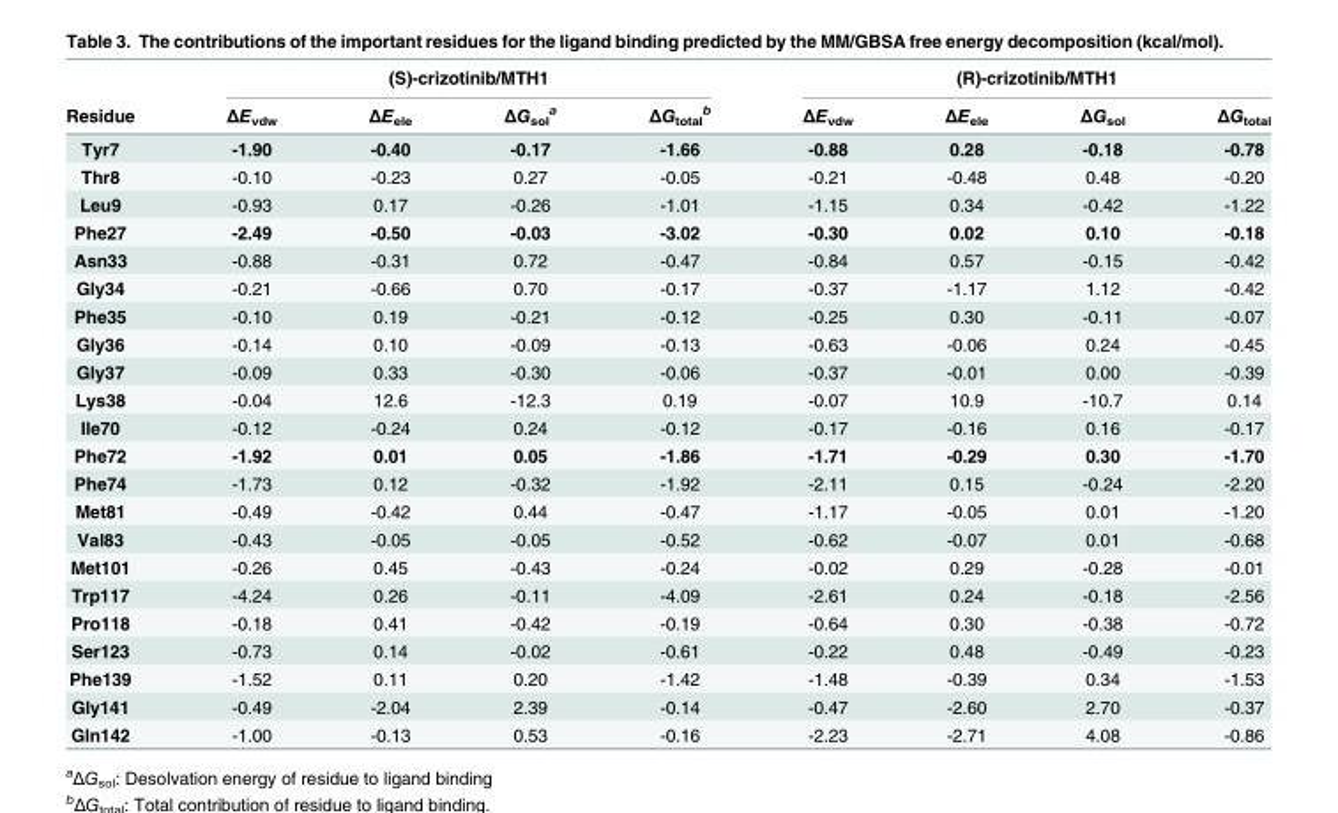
<table><thead><tr><td rowspan="2">Residue</td><td colspan="4">(S)-crizotinib/MTH1</td><td colspan="4">(R)-crizotinib/MTH1</td></tr><tr><td>ΔE<sub>vdw</sub></td><td>ΔE<sub>ele</sub></td><td>ΔG<sub>sol</sub> <sup>a</sup></td><td>ΔG<sub>total</sub> <sup>b</sup></td><td>ΔE<sub>vdw</sub></td><td>ΔE<sub>ele</sub></td><td>ΔG<sub>sol</sub></td><td>ΔG<sub>total</sub></td></tr></thead><tbody><tr><td>Tyr7</td><td>-1.90</td><td>-0.40</td><td>-0.17</td><td>-1.66</td><td>-0.88</td><td>0.28</td><td>-0.18</td><td>-0.78</td></tr><tr><td>Thr8</td><td>-0.10</td><td>-0.23</td><td>0.27</td><td>-0.05</td><td>-0.21</td><td>-0.48</td><td>0.48</td><td>-0.20</td></tr><tr><td>Leu9</td><td>-0.93</td><td>0.17</td><td>-0.26</td><td>-1.01</td><td>-1.15</td><td>0.34</td><td>-0.42</td><td>-1.22</td></tr><tr><td>Phe27</td><td>-2.49</td><td>-0.50</td><td>-0.03</td><td>-3.02</td><td>-0.30</td><td>0.02</td><td>0.10</td><td>-0.18</td></tr><tr><td>Asn33</td><td>-0.88</td><td>-0.31</td><td>0.72</td><td>-0.47</td><td>-0.84</td><td>0.57</td><td>-0.15</td><td>-0.42</td></tr><tr><td>Gly34</td><td>-0.21</td><td>-0.66</td><td>0.70</td><td>-0.17</td><td>-0.37</td><td>-1.17</td><td>1.12</td><td>-0.42</td></tr><tr><td>Phe35</td><td>-0.10</td><td>0.19</td><td>-0.21</td><td>-0.12</td><td>-0.25</td><td>0.30</td><td>-0.11</td><td>-0.07</td></tr><tr><td>Gly36</td><td>-0.14</td><td>0.10</td><td>-0.09</td><td>-0.13</td><td>-0.63</td><td>-0.06</td><td>0.24</td><td>-0.45</td></tr><tr><td>Gly37</td><td>-0.09</td><td>0.33</td><td>-0.30</td><td>-0.06</td><td>-0.37</td><td>-0.01</td><td>0.00</td><td>-0.39</td></tr><tr><td>Lys38</td><td>-0.04</td><td>12.6</td><td>-12.3</td><td>0.19</td><td>-0.07</td><td>10.9</td><td>-10.7</td><td>0.14</td></tr><tr><td>Ile70</td><td>-0.12</td><td>-0.24</td><td>0.24</td><td>-0.12</td><td>-0.17</td><td>-0.16</td><td>0.16</td><td>-0.17</td></tr><tr><td>Phe72</td><td>-1.92</td><td>0.01</td><td>0.05</td><td>-1.86</td><td>-1.71</td><td>-0.29</td><td>0.30</td><td>-1.70</td></tr><tr><td>Phe74</td><td>-1.73</td><td>0.12</td><td>-0.32</td><td>-1.92</td><td>-2.11</td><td>0.15</td><td>-0.24</td><td>-2.20</td></tr><tr><td>Met81</td><td>-0.49</td><td>-0.42</td><td>0.44</td><td>-0.47</td><td>-1.17</td><td>-0.05</td><td>0.01</td><td>-1.20</td></tr><tr><td>Val83</td><td>-0.43</td><td>-0.05</td><td>-0.05</td><td>-0.52</td><td>-0.62</td><td>-0.07</td><td>0.01</td><td>-0.68</td></tr><tr><td>Met101</td><td>-0.26</td><td>0.45</td><td>-0.43</td><td>-0.24</td><td>-0.02</td><td>0.29</td><td>-0.28</td><td>-0.01</td></tr><tr><td>Trp117</td><td>-4.24</td><td>0.26</td><td>-0.11</td><td>-4.09</td><td>-2.61</td><td>0.24</td><td>-0.18</td><td>-2.56</td></tr><tr><td>Pro118</td><td>-0.18</td><td>0.41</td><td>-0.42</td><td>-0.19</td><td>-0.64</td><td>0.30</td><td>-0.38</td><td>-0.72</td></tr><tr><td>Ser123</td><td>-0.73</td><td>0.14</td><td>-0.02</td><td>-0.61</td><td>-0.22</td><td>0.48</td><td>-0.49</td><td>-0.23</td></tr><tr><td>Phe139</td><td>-1.52</td><td>0.11</td><td>0.20</td><td>-1.42</td><td>-1.48</td><td>-0.39</td><td>0.34</td><td>-1.53</td></tr><tr><td>Gly141</td><td>-0.49</td><td>-2.04</td><td>2.39</td><td>-0.14</td><td>-0.47</td><td>-2.60</td><td>2.70</td><td>-0.37</td></tr><tr><td>Gln142</td><td>-1.00</td><td>-0.13</td><td>0.53</td><td>-0.16</td><td>-2.23</td><td>-2.71</td><td>4.08</td><td>-0.86</td></tr></tbody></table>